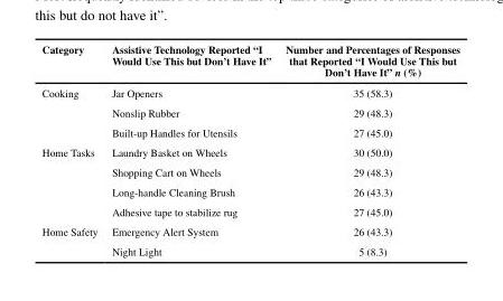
<table><thead><tr><td>Category</td><td>Assistive Technology Reported “I Would Use This but Don’t Have It”</td><td>Number and Percentages of Responses that Reported “I Would Use This but Don’t Have It” n (%)</td></tr></thead><tbody><tr><td rowspan="3">Cooking</td><td>Jar Openers</td><td>35 (58.3)</td></tr><tr><td>Nonslip Rubber</td><td>29 (48.3)</td></tr><tr><td>Built-up Handles for Utensils</td><td>27 (45.0)</td></tr><tr><td rowspan="3">Home Tasks</td><td>Laundry Basket on Wheels</td><td>30 (50.0)</td></tr><tr><td>Shopping Cart on Wheels</td><td>29 (48.3)</td></tr><tr><td>Long-handle Cleaning Brush</td><td>26 (43.3)</td></tr><tr><td rowspan="3">Home Safety</td><td>Adhesive tape to stabilize rug</td><td>27 (45.0)</td></tr><tr><td>Emergency Alert System</td><td>26 (43.3)</td></tr><tr><td>Night Light</td><td>5 (8.3)</td></tr></tbody></table>